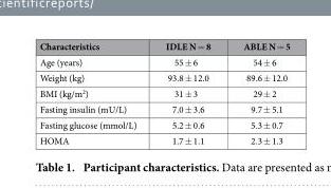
<table><thead><tr><td>Characteristics</td><td>IDLE N = 8</td><td>ABLE N = 5</td></tr></thead><tbody><tr><td>Age (years)</td><td>55 ± 6</td><td>54 ± 6</td></tr><tr><td>Weight (kg)</td><td>93.8 ± 12.0</td><td>89.6 ± 12.0</td></tr><tr><td>BMI (kg/m<sup>2</sup>)</td><td>31 ± 3</td><td>29 ± 2</td></tr><tr><td>Fasting insulin (mU/L)</td><td>7.0 ± 3.6</td><td>9.7 ± 5.1</td></tr><tr><td>Fasting glucose (mmol/L)</td><td>5.2 ± 0.6</td><td>5.3 ± 0.7</td></tr><tr><td>HOMA</td><td>1.7 ± 1.1</td><td>2.3 ± 1.3</td></tr></tbody></table>